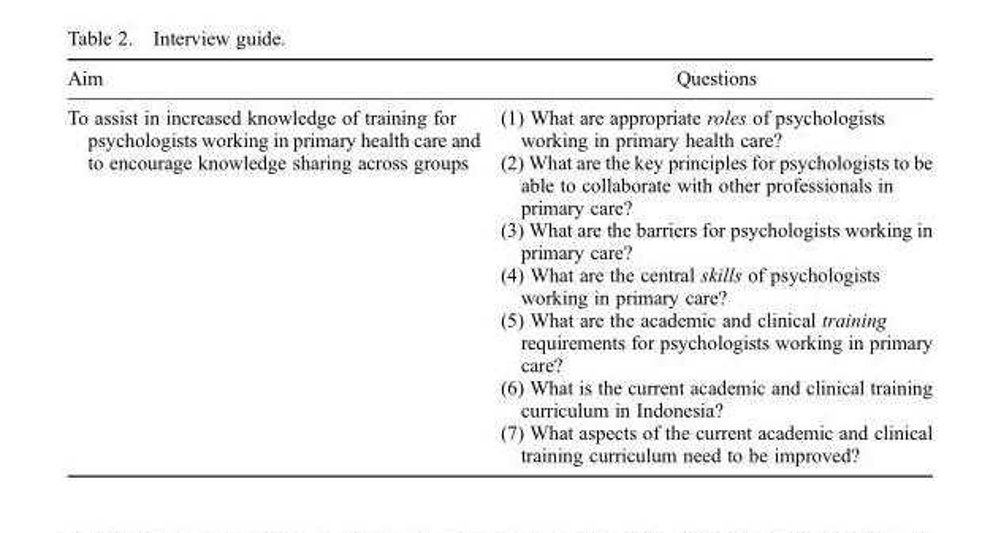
<table><thead><tr><td>Aim</td><td>Questions</td></tr></thead><tbody><tr><td rowspan="7">To assist in increased knowledge of training for psychologists working in primary health care and to encourage knowledge sharing across groups</td><td>(1) What are appropriate roles of psychologists working in primary health care?</td></tr><tr><td>(2) What are the key principles for psychologists to be able to collaborate with other professionals in primary care?</td></tr><tr><td>(3) What are the barriers for psychologists working in primary care?</td></tr><tr><td>(4) What are the central skills of psychologists working in primary care?</td></tr><tr><td>(5) What are the academic and clinical training requirements for psychologists working in primary care?</td></tr><tr><td>(6) What is the current academic and clinical training curriculum in Indonesia?</td></tr><tr><td>(7) What aspects of the current academic and clinical training curriculum need to be improved?</td></tr></tbody></table>